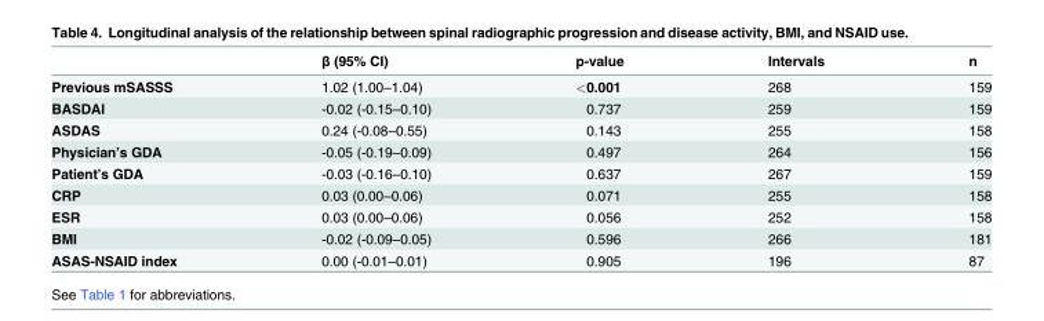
<table><thead><tr><td></td><td>β (95% CI)</td><td>p-value</td><td>Intervals</td><td>n</td></tr></thead><tbody><tr><td>Previous mSASSS</td><td>1.02 (1.00–1.04)</td><td>&lt;0.001</td><td>268</td><td>159</td></tr><tr><td>BASDAI</td><td>-0.02 (-0.15–0.10)</td><td>0.737</td><td>259</td><td>159</td></tr><tr><td>ASDAS</td><td>0.24 (-0.08–0.55)</td><td>0.143</td><td>255</td><td>158</td></tr><tr><td>Physician’s GDA</td><td>-0.05 (-0.19–0.09)</td><td>0.497</td><td>264</td><td>156</td></tr><tr><td>Patient’s GDA</td><td>-0.03 (-0.16–0.10)</td><td>0.637</td><td>267</td><td>159</td></tr><tr><td>CRP</td><td>0.03 (0.00–0.06)</td><td>0.071</td><td>255</td><td>158</td></tr><tr><td>ESR</td><td>0.03 (0.00–0.06)</td><td>0.056</td><td>252</td><td>158</td></tr><tr><td>BMI</td><td>-0.02 (-0.09–0.05)</td><td>0.596</td><td>266</td><td>181</td></tr><tr><td>ASAS-NSAID index</td><td>0.00 (-0.01–0.01)</td><td>0.905</td><td>196</td><td>87</td></tr></tbody></table>